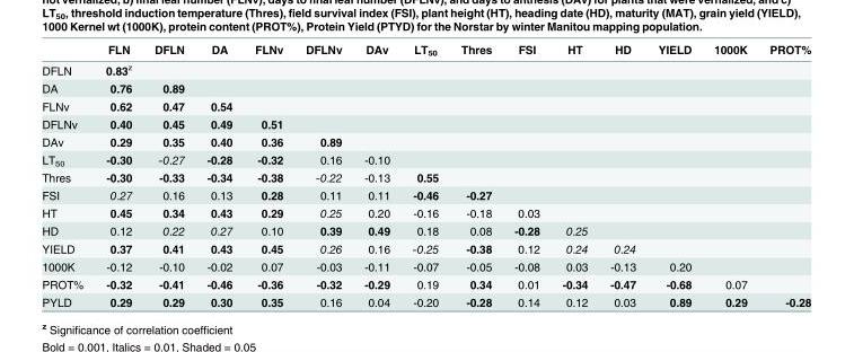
<table><thead><tr><td></td><td>FLN</td><td>DFLN</td><td>DA</td><td>FLNv</td><td>DFLNv</td><td>DAv</td><td>LT<sub>50</sub></td><td>Thres</td><td>FSI</td><td>HT</td><td>HD</td><td>YIELD</td><td>1000K</td><td>PROT%</td></tr></thead><tbody><tr><td>DFLN</td><td>0.83<sup>z</sup></td><td></td><td></td><td></td><td></td><td></td><td></td><td></td><td></td><td></td><td></td><td></td><td></td><td></td></tr><tr><td>DA</td><td>0.76</td><td>0.89</td><td></td><td></td><td></td><td></td><td></td><td></td><td></td><td></td><td></td><td></td><td></td><td></td></tr><tr><td>FLNv</td><td>0.62</td><td>0.47</td><td>0.54</td><td></td><td></td><td></td><td></td><td></td><td></td><td></td><td></td><td></td><td></td><td></td></tr><tr><td>DFLNv</td><td>0.40</td><td>0.45</td><td>0.49</td><td>0.51</td><td></td><td></td><td></td><td></td><td></td><td></td><td></td><td></td><td></td><td></td></tr><tr><td>DAv</td><td>0.29</td><td>0.35</td><td>0.40</td><td>0.36</td><td>0.89</td><td></td><td></td><td></td><td></td><td></td><td></td><td></td><td></td><td></td></tr><tr><td>LT<sub>50</sub></td><td>-0.30</td><td>-0.27</td><td>-0.28</td><td>-0.32</td><td>0.16</td><td>-0.10</td><td></td><td></td><td></td><td></td><td></td><td></td><td></td><td></td></tr><tr><td>Thres</td><td>-0.30</td><td>-0.33</td><td>-0.34</td><td>-0.38</td><td>-0.22</td><td>-0.13</td><td>0.55</td><td></td><td></td><td></td><td></td><td></td><td></td><td></td></tr><tr><td>FSI</td><td>0.27</td><td>0.16</td><td>0.13</td><td>0.28</td><td>0.11</td><td>0.11</td><td>-0.46</td><td>-0.27</td><td></td><td></td><td></td><td></td><td></td><td></td></tr><tr><td>HT</td><td>0.45</td><td>0.34</td><td>0.43</td><td>0.29</td><td>0.25</td><td>0.20</td><td>-0.16</td><td>-0.18</td><td>0.03</td><td></td><td></td><td></td><td></td><td></td></tr><tr><td>HD</td><td>0.12</td><td>0.22</td><td>0.27</td><td>0.10</td><td>0.39</td><td>0.49</td><td>0.18</td><td>0.08</td><td>-0.28</td><td>0.25</td><td></td><td></td><td></td><td></td></tr><tr><td>YIELD</td><td>0.37</td><td>0.41</td><td>0.43</td><td>0.45</td><td>0.26</td><td>0.16</td><td>-0.25</td><td>-0.38</td><td>0.12</td><td>0.24</td><td>0.24</td><td></td><td></td><td></td></tr><tr><td>1000K</td><td>-0.12</td><td>-0.10</td><td>-0.02</td><td>0.07</td><td>-0.03</td><td>-0.11</td><td>-0.07</td><td>-0.05</td><td>-0.08</td><td>0.03</td><td>-0.13</td><td>0.20</td><td></td><td></td></tr><tr><td>PROT%</td><td>-0.32</td><td>-0.41</td><td>-0.46</td><td>-0.36</td><td>-0.32</td><td>-0.29</td><td>0.19</td><td>0.34</td><td>0.01</td><td>-0.34</td><td>-0.47</td><td>-0.68</td><td>0.07</td><td></td></tr><tr><td>PYLD</td><td>0.29</td><td>0.29</td><td>0.30</td><td>0.35</td><td>0.16</td><td>0.04</td><td>-0.20</td><td>-0.28</td><td>0.14</td><td>0.12</td><td>0.03</td><td>0.89</td><td>0.29</td><td>-0.28</td></tr></tbody></table>